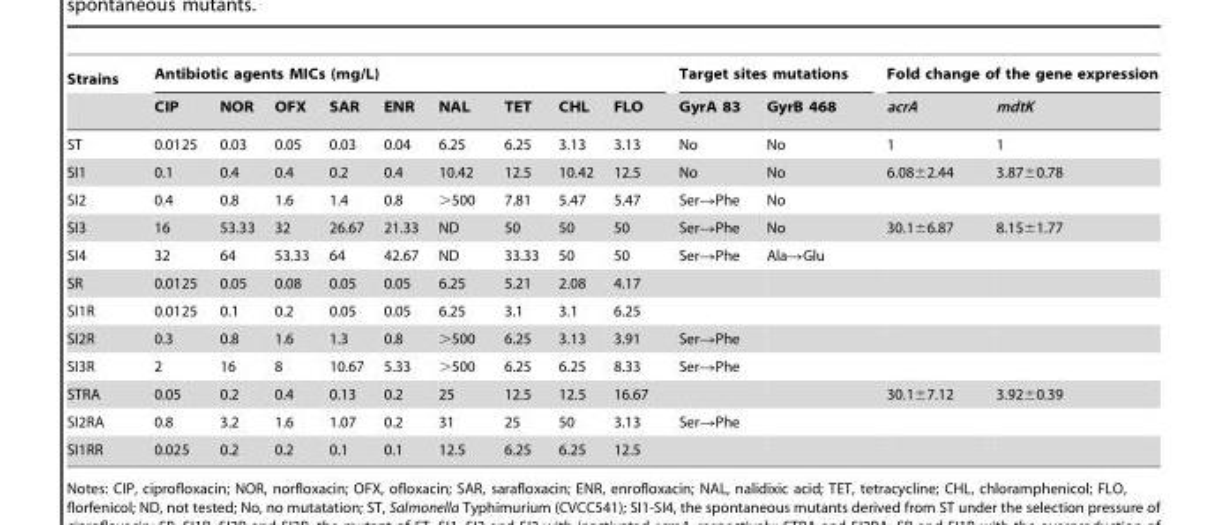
<table><thead><tr><td rowspan="2">Strains</td><td colspan="9">Antibiotic agents MICs (mg/L)</td><td colspan="2">Target sites mutations</td><td colspan="2">Fold change of the gene expression</td></tr><tr><td>CIP</td><td>NOR</td><td>OFX</td><td>SAR</td><td>ENR</td><td>NAL</td><td>TET</td><td>CHL</td><td>FLO</td><td>GyrA 83</td><td>GyrB 468</td><td>acrA</td><td>mdtK</td></tr></thead><tbody><tr><td>ST</td><td>0.0125</td><td>0.03</td><td>0.05</td><td>0.03</td><td>0.04</td><td>6.25</td><td>6.25</td><td>3.13</td><td>3.13</td><td>No</td><td>No</td><td>1</td><td>1</td></tr><tr><td>SI1</td><td>0.1</td><td>0.4</td><td>0.4</td><td>0.2</td><td>0.4</td><td>10.42</td><td>12.5</td><td>10.42</td><td>12.5</td><td>No</td><td>No</td><td>6.08±2.44</td><td>3.87±0.78</td></tr><tr><td>SI2</td><td>0.4</td><td>0.8</td><td>1.6</td><td>1.4</td><td>0.8</td><td>&gt;500</td><td>7.81</td><td>5.47</td><td>5.47</td><td>Ser→Phe</td><td>No</td><td></td><td></td></tr><tr><td>SI3</td><td>16</td><td>53.33</td><td>32</td><td>26.67</td><td>21.33</td><td>ND</td><td>50</td><td>50</td><td>50</td><td>Ser→Phe</td><td>No</td><td>30.1±6.87</td><td>8.15±1.77</td></tr><tr><td>SI4</td><td>32</td><td>64</td><td>53.33</td><td>64</td><td>42.67</td><td>ND</td><td>33.33</td><td>50</td><td>50</td><td>Ser→Phe</td><td>Ala→Glu</td><td></td><td></td></tr><tr><td>SR</td><td>0.0125</td><td>0.05</td><td>0.08</td><td>0.05</td><td>0.05</td><td>6.25</td><td>5.21</td><td>2.08</td><td>4.17</td><td></td><td></td><td></td><td></td></tr><tr><td>SI1R</td><td>0.0125</td><td>0.1</td><td>0.2</td><td>0.05</td><td>0.05</td><td>6.25</td><td>3.1</td><td>3.1</td><td>6.25</td><td></td><td></td><td></td><td></td></tr><tr><td>SI2R</td><td>0.3</td><td>0.8</td><td>1.6</td><td>1.3</td><td>0.8</td><td>&gt;500</td><td>6.25</td><td>3.13</td><td>3.91</td><td>Ser→Phe</td><td></td><td></td><td></td></tr><tr><td>SI3R</td><td>2</td><td>16</td><td>8</td><td>10.67</td><td>5.33</td><td>&gt;500</td><td>6.25</td><td>6.25</td><td>8.33</td><td>Ser→Phe</td><td></td><td></td><td></td></tr><tr><td>STRA</td><td>0.05</td><td>0.2</td><td>0.4</td><td>0.13</td><td>0.2</td><td>25</td><td>12.5</td><td>12.5</td><td>16.67</td><td></td><td></td><td>30.1±7.12</td><td>3.92±0.39</td></tr><tr><td>SI2RA</td><td>0.8</td><td>3.2</td><td>1.6</td><td>1.07</td><td>0.2</td><td>31</td><td>25</td><td>50</td><td>3.13</td><td>Ser→Phe</td><td></td><td></td><td></td></tr><tr><td>SI1RR</td><td>0.025</td><td>0.2</td><td>0.2</td><td>0.1</td><td>0.1</td><td>12.5</td><td>6.25</td><td>6.25</td><td>12.5</td><td></td><td></td><td></td><td></td></tr></tbody></table>